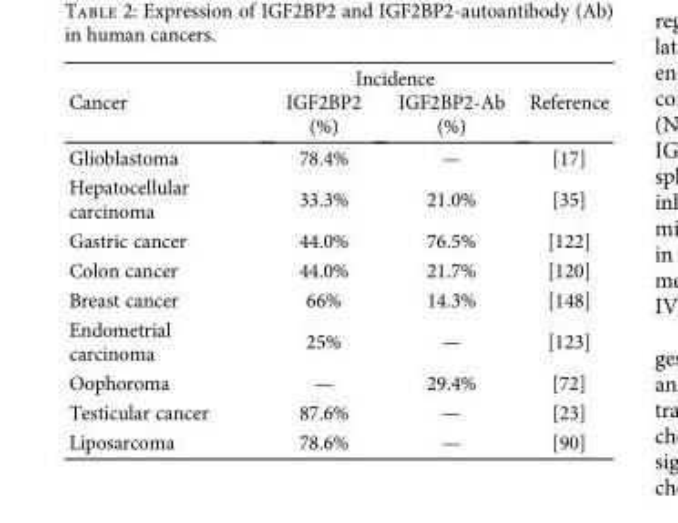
<table><thead><tr><td rowspan="2">Cancer</td><td colspan="2">Incidence</td><td rowspan="2">Reference</td></tr><tr><td>IGF2BP2 (%)</td><td>IGF2BP2-Ab (%)</td></tr></thead><tbody><tr><td>Glioblastoma</td><td>78.4%</td><td>—</td><td>[17]</td></tr><tr><td>Hepatocellular carcinoma</td><td>33.3%</td><td>21.0%</td><td>[35]</td></tr><tr><td>Gastric cancer</td><td>44.0%</td><td>76.5%</td><td>[122]</td></tr><tr><td>Colon cancer</td><td>44.0%</td><td>21.7%</td><td>[120]</td></tr><tr><td>Breast cancer</td><td>66%</td><td>14.3%</td><td>[148]</td></tr><tr><td>Endometrial carcinoma</td><td>25%</td><td>—</td><td>[123]</td></tr><tr><td>Oophoroma</td><td>—</td><td>29.4%</td><td>[72]</td></tr><tr><td>Testicular cancer</td><td>87.6%</td><td>—</td><td>[23]</td></tr><tr><td>Liposarcoma</td><td>78.6%</td><td>—</td><td>[90]</td></tr></tbody></table>